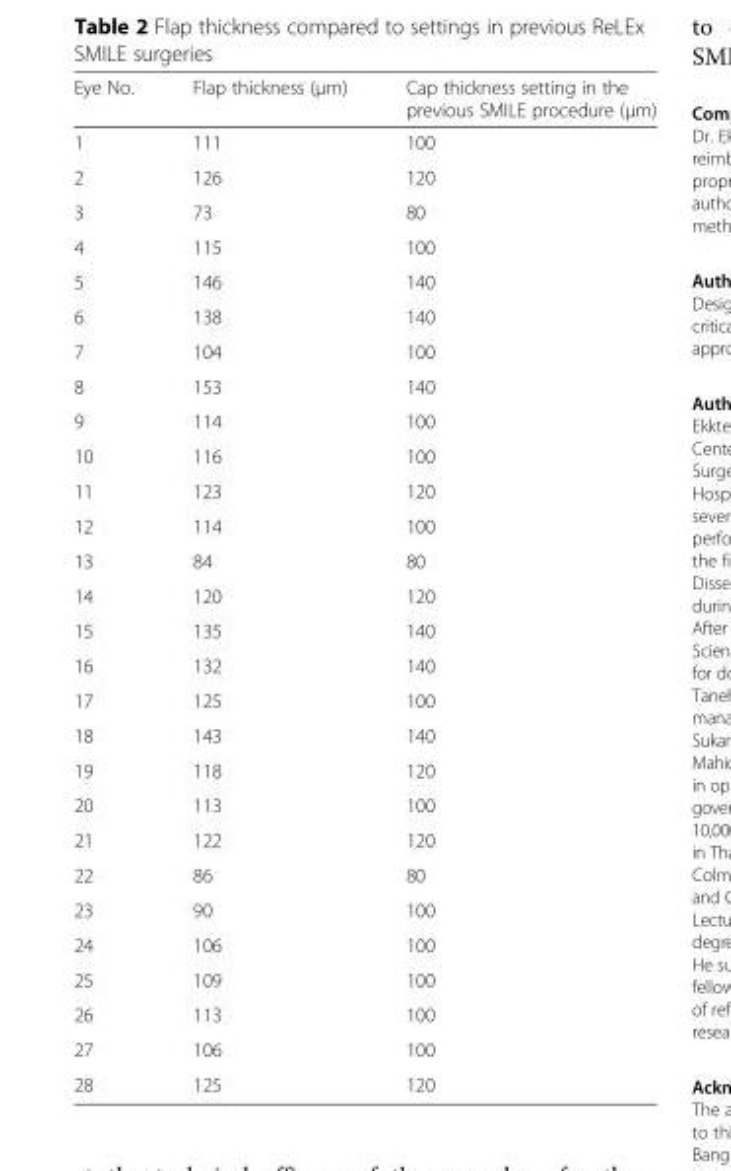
<table><thead><tr><td>Eye No.</td><td>Flap thickness (μm)</td><td>Cap thickness setting in the previous SMILE procedure (μm)</td></tr></thead><tbody><tr><td>1</td><td>111</td><td>100</td></tr><tr><td>2</td><td>126</td><td>120</td></tr><tr><td>3</td><td>73</td><td>80</td></tr><tr><td>4</td><td>115</td><td>100</td></tr><tr><td>5</td><td>146</td><td>140</td></tr><tr><td>6</td><td>138</td><td>140</td></tr><tr><td>7</td><td>104</td><td>100</td></tr><tr><td>8</td><td>153</td><td>140</td></tr><tr><td>9</td><td>114</td><td>100</td></tr><tr><td>10</td><td>116</td><td>100</td></tr><tr><td>11</td><td>123</td><td>120</td></tr><tr><td>12</td><td>114</td><td>100</td></tr><tr><td>13</td><td>84</td><td>80</td></tr><tr><td>14</td><td>120</td><td>120</td></tr><tr><td>15</td><td>135</td><td>140</td></tr><tr><td>16</td><td>132</td><td>140</td></tr><tr><td>17</td><td>125</td><td>100</td></tr><tr><td>18</td><td>143</td><td>140</td></tr><tr><td>19</td><td>118</td><td>120</td></tr><tr><td>20</td><td>113</td><td>100</td></tr><tr><td>21</td><td>122</td><td>120</td></tr><tr><td>22</td><td>86</td><td>80</td></tr><tr><td>23</td><td>90</td><td>100</td></tr><tr><td>24</td><td>106</td><td>100</td></tr><tr><td>25</td><td>109</td><td>100</td></tr><tr><td>26</td><td>113</td><td>100</td></tr><tr><td>27</td><td>106</td><td>100</td></tr><tr><td>28</td><td>125</td><td>120</td></tr></tbody></table>